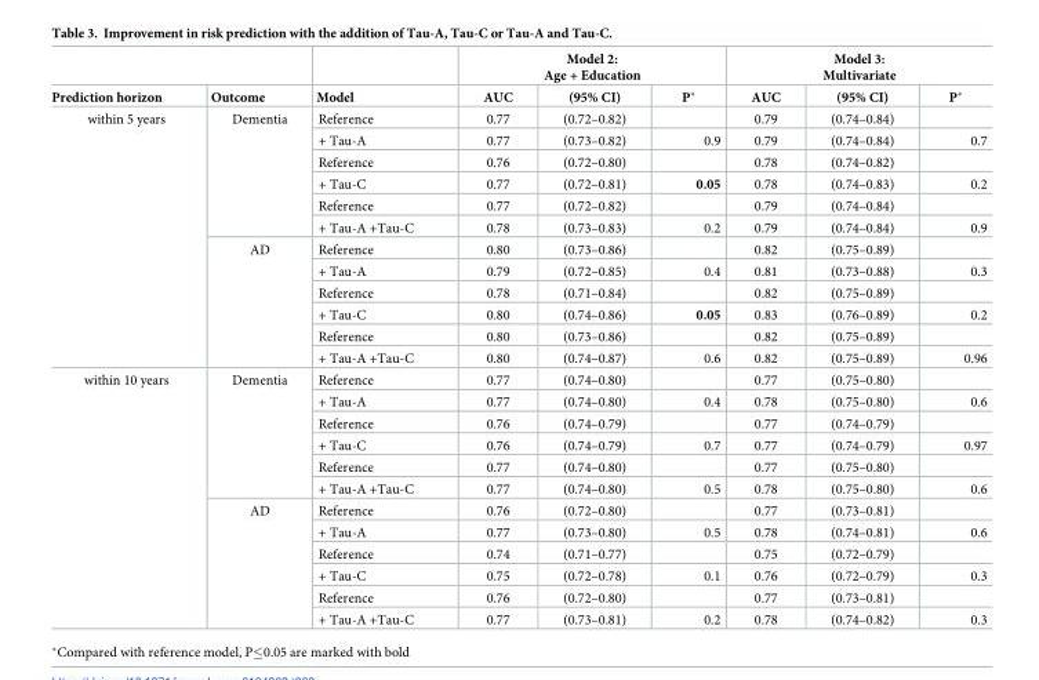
<table><thead><tr><td rowspan="2">Prediction horizon</td><td rowspan="2">Outcome</td><td rowspan="2">Model</td><td colspan="3">Model 2: Age + Education</td><td colspan="3">Model 3: Multivariate</td></tr><tr><td>AUC</td><td>(95% CI)</td><td>P*</td><td>AUC</td><td>(95% CI)</td><td>P*</td></tr></thead><tbody><tr><td rowspan="12">within 5 years</td><td rowspan="6">Dementia</td><td>Reference</td><td>0.77</td><td>(0.72–0.82)</td><td></td><td>0.79</td><td>(0.74–0.84)</td><td></td></tr><tr><td>+ Tau-A</td><td>0.77</td><td>(0.73–0.82)</td><td>0.9</td><td>0.79</td><td>(0.74–0.84)</td><td>0.7</td></tr><tr><td>Reference</td><td>0.76</td><td>(0.72–0.80)</td><td></td><td>0.78</td><td>(0.74–0.82)</td><td></td></tr><tr><td>+ Tau-C</td><td>0.77</td><td>(0.72–0.81)</td><td>0.05</td><td>0.78</td><td>(0.74–0.83)</td><td>0.2</td></tr><tr><td>Reference</td><td>0.77</td><td>(0.72–0.82)</td><td></td><td>0.79</td><td>(0.74–0.84)</td><td></td></tr><tr><td>+ Tau-A +Tau-C</td><td>0.78</td><td>(0.73–0.83)</td><td>0.2</td><td>0.79</td><td>(0.74–0.84)</td><td>0.9</td></tr><tr><td rowspan="6">AD</td><td>Reference</td><td>0.80</td><td>(0.73–0.86)</td><td></td><td>0.82</td><td>(0.75–0.89)</td><td></td></tr><tr><td>+ Tau-A</td><td>0.79</td><td>(0.72–0.85)</td><td>0.4</td><td>0.81</td><td>(0.73–0.88)</td><td>0.3</td></tr><tr><td>Reference</td><td>0.78</td><td>(0.71–0.84)</td><td></td><td>0.82</td><td>(0.75–0.89)</td><td></td></tr><tr><td>+ Tau-C</td><td>0.80</td><td>(0.74–0.86)</td><td>0.05</td><td>0.83</td><td>(0.76–0.89)</td><td>0.2</td></tr><tr><td>Reference</td><td>0.80</td><td>(0.73–0.86)</td><td></td><td>0.82</td><td>(0.75–0.89)</td><td></td></tr><tr><td>+ Tau-A +Tau-C</td><td>0.80</td><td>(0.74–0.87)</td><td>0.6</td><td>0.82</td><td>(0.75–0.89)</td><td>0.96</td></tr><tr><td rowspan="12">within 10 years</td><td rowspan="6">Dementia</td><td>Reference</td><td>0.77</td><td>(0.74–0.80)</td><td></td><td>0.77</td><td>(0.75–0.80)</td><td></td></tr><tr><td>+ Tau-A</td><td>0.77</td><td>(0.74–0.80)</td><td>0.4</td><td>0.78</td><td>(0.75–0.80)</td><td>0.6</td></tr><tr><td>Reference</td><td>0.76</td><td>(0.74–0.79)</td><td></td><td>0.77</td><td>(0.74–0.79)</td><td></td></tr><tr><td>+ Tau-C</td><td>0.76</td><td>(0.74–0.79)</td><td>0.7</td><td>0.77</td><td>(0.74–0.79)</td><td>0.97</td></tr><tr><td>Reference</td><td>0.77</td><td>(0.74–0.80)</td><td></td><td>0.77</td><td>(0.75–0.80)</td><td></td></tr><tr><td>+ Tau-A +Tau-C</td><td>0.77</td><td>(0.74–0.80)</td><td>0.5</td><td>0.78</td><td>(0.75–0.80)</td><td>0.6</td></tr><tr><td rowspan="6">AD</td><td>Reference</td><td>0.76</td><td>(0.72–0.80)</td><td></td><td>0.77</td><td>(0.73–0.81)</td><td></td></tr><tr><td>+ Tau-A</td><td>0.77</td><td>(0.73–0.80)</td><td>0.5</td><td>0.78</td><td>(0.74–0.81)</td><td>0.6</td></tr><tr><td>Reference</td><td>0.74</td><td>(0.71–0.77)</td><td></td><td>0.75</td><td>(0.72–0.79)</td><td></td></tr><tr><td>+ Tau-C</td><td>0.75</td><td>(0.72–0.78)</td><td>0.1</td><td>0.76</td><td>(0.72–0.79)</td><td>0.3</td></tr><tr><td>Reference</td><td>0.76</td><td>(0.72–0.80)</td><td></td><td>0.77</td><td>(0.73–0.81)</td><td></td></tr><tr><td>+ Tau-A +Tau-C</td><td>0.77</td><td>(0.73–0.81)</td><td>0.2</td><td>0.78</td><td>(0.74–0.82)</td><td>0.3</td></tr></tbody></table>